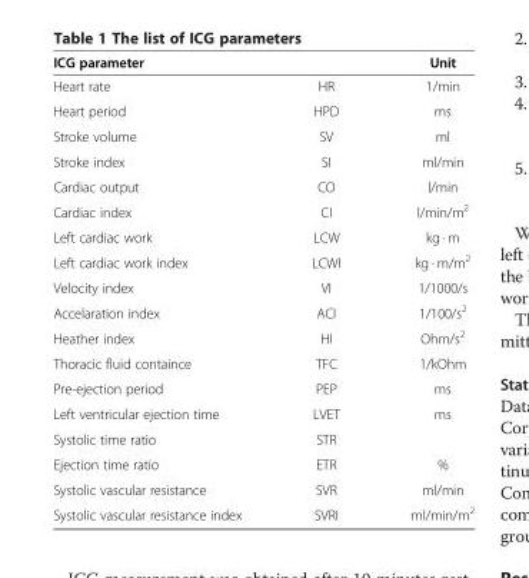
<table><thead><tr><td>ICG parameter</td><td></td><td>Unit</td></tr></thead><tbody><tr><td>Heart rate</td><td>HR</td><td>1/min</td></tr><tr><td>Heart period</td><td>HPD</td><td>ms</td></tr><tr><td>Stroke volume</td><td>SV</td><td>ml</td></tr><tr><td>Stroke index</td><td>SI</td><td>ml/min</td></tr><tr><td>Cardiac output</td><td>CO</td><td>l/min</td></tr><tr><td>Cardiac index</td><td>CI</td><td>l/min/m<sup>2</sup></td></tr><tr><td>Left cardiac work</td><td>LCW</td><td>kg · m</td></tr><tr><td>Left cardiac work index</td><td>LCWI</td><td>kg · m/m<sup>2</sup></td></tr><tr><td>Velocity index</td><td>VI</td><td>1/1000/s</td></tr><tr><td>Accelaration index</td><td>ACI</td><td>1/100/s<sup>2</sup></td></tr><tr><td>Heather index</td><td>HI</td><td>Ohm/s<sup>2</sup></td></tr><tr><td>Thoracic fluid containce</td><td>TFC</td><td>1/kOhm</td></tr><tr><td>Pre-ejection period</td><td>PEP</td><td>ms</td></tr><tr><td>Left ventricular ejection time</td><td>LVET</td><td>ms</td></tr><tr><td>Systolic time ratio</td><td>STR</td><td></td></tr><tr><td>Ejection time ratio</td><td>ETR</td><td>%</td></tr><tr><td>Systolic vascular resistance</td><td>SVR</td><td>ml/min</td></tr><tr><td>Systolic vascular resistance index</td><td>SVRI</td><td>ml/min/m<sup>2</sup></td></tr></tbody></table>